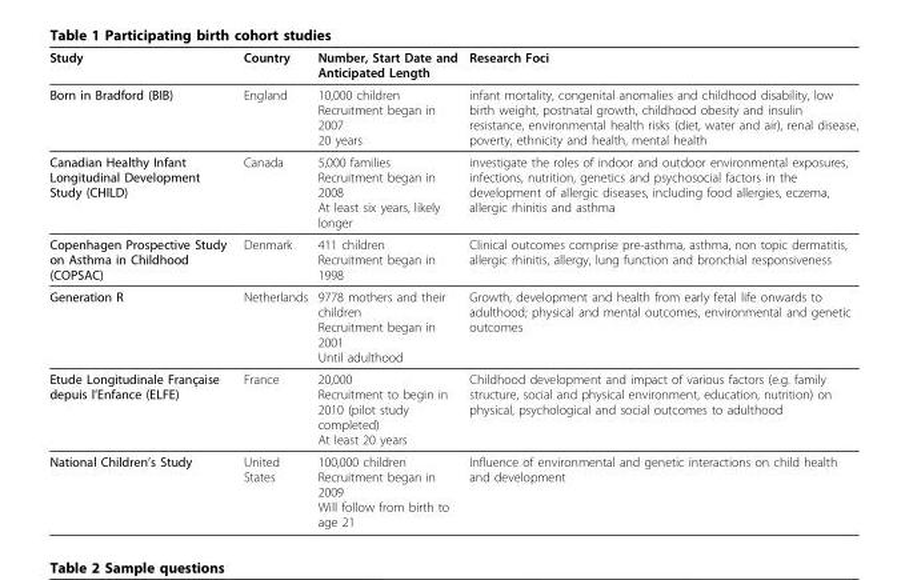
<table><thead><tr><td>Study</td><td>Country</td><td>Number, Start Date and Anticipated Length</td><td>Research Foci</td></tr></thead><tbody><tr><td>Born in Bradford (BIB)</td><td>England</td><td>10,000 children Recruitment began in 2007 20 years</td><td>infant mortality, congenital anomalies and childhood disability, low birth weight, postnatal growth, childhood obesity and insulin resistance, environmental health risks (diet, water and air), renal disease, poverty, ethnicity and health, mental health</td></tr><tr><td>Canadian Healthy Infant Longitudinal Development Study (CHILD)</td><td>Canada</td><td>5,000 families Recruitment began in 2008 At least six years, likely longer</td><td>investigate the roles of indoor and outdoor environmental exposures, infections, nutrition, genetics and psychosocial factors in the development of allergic diseases, including food allergies, eczema, allergic rhinitis and asthma</td></tr><tr><td>Copenhagen Prospective Study on Asthma in Childhood (COPSAC)</td><td>Denmark</td><td>411 children Recruitment began in 1998</td><td>Clinical outcomes comprise pre-asthma, asthma, non topic dermatitis, allergic rhinitis, allergy, lung function and bronchial responsiveness</td></tr><tr><td>Generation R</td><td>Netherlands</td><td>9778 mothers and their children Recruitment began in 2001 Until adulthood</td><td>Growth, development and health from early fetal life onwards to adulthood; physical and mental outcomes, environmental and genetic outcomes</td></tr><tr><td>Etude Longitudinale Française depuis l’Enfance (ELFE)</td><td>France</td><td>20,000 Recruitment to begin in 2010 (pilot study completed) At least 20 years</td><td>Childhood development and impact of various factors (e.g. family structure, social and physical environment, education, nutrition) on physical, psychological and social outcomes to adulthood</td></tr><tr><td>National Children’s Study</td><td>United States</td><td>100,000 children Recruitment began in 2009 Will follow from birth to age 21</td><td>Influence of environmental and genetic interactions on child health and development</td></tr></tbody></table>